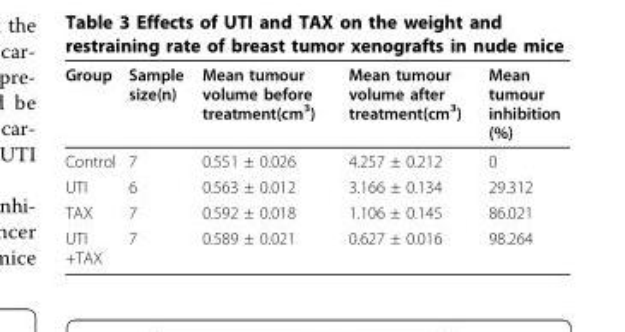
<table><thead><tr><td>Group</td><td>Sample size(n)</td><td>Mean tumour volume before treatment(cm<sup>3</sup>)</td><td>Mean tumour volume after treatment(cm<sup>3</sup>)</td><td>Mean tumour inhibition (%)</td></tr></thead><tbody><tr><td>Control</td><td>7</td><td>0.551 ± 0.026</td><td>4.257 ± 0.212</td><td>0</td></tr><tr><td>UTI</td><td>6</td><td>0.563 ± 0.012</td><td>3.166 ± 0.134</td><td>29.312</td></tr><tr><td>TAX</td><td>7</td><td>0.592 ± 0.018</td><td>1.106 ± 0.145</td><td>86.021</td></tr><tr><td>UTI +TAX</td><td>7</td><td>0.589 ± 0.021</td><td>0.627 ± 0.016</td><td>98.264</td></tr></tbody></table>